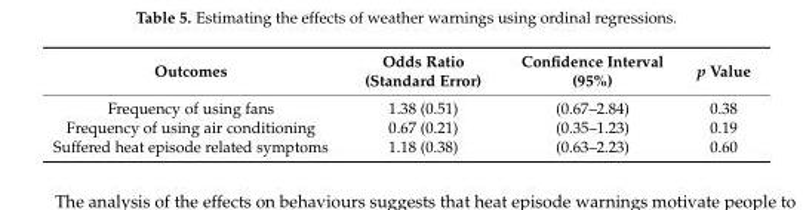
<table><thead><tr><td>Outcomes</td><td>Odds Ratio (Standard Error)</td><td>Confidence Interval (95%)</td><td>p Value</td></tr></thead><tbody><tr><td>Frequency of using fans</td><td>1.38 (0.51)</td><td>(0.67–2.84)</td><td>0.38</td></tr><tr><td>Frequency of using air conditioning</td><td>0.67 (0.21)</td><td>(0.35–1.23)</td><td>0.19</td></tr><tr><td>Suffered heat episode related symptoms</td><td>1.18 (0.38)</td><td>(0.63–2.23)</td><td>0.60</td></tr></tbody></table>